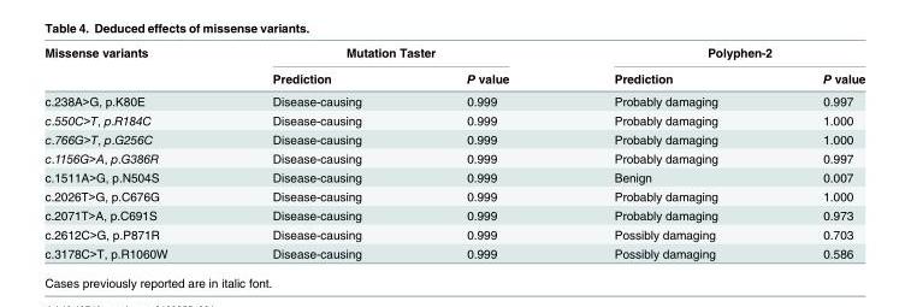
<table><thead><tr><td rowspan="2">Missense variants</td><td colspan="2">Mutation Taster</td><td colspan="2">Polyphen-2</td></tr><tr><td>Prediction</td><td>P value</td><td>Prediction</td><td>P value</td></tr></thead><tbody><tr><td>c.238A&gt;G, p.K80E</td><td>Disease-causing</td><td>0.999</td><td>Probably damaging</td><td>0.997</td></tr><tr><td>c.550C&gt;T, p.R184C</td><td>Disease-causing</td><td>0.999</td><td>Probably damaging</td><td>1.000</td></tr><tr><td>c.766G&gt;T, p.G256C</td><td>Disease-causing</td><td>0.999</td><td>Probably damaging</td><td>1.000</td></tr><tr><td>c.1156G&gt;A, p.G386R</td><td>Disease-causing</td><td>0.999</td><td>Probably damaging</td><td>0.997</td></tr><tr><td>c.1511A&gt;G, p.N504S</td><td>Disease-causing</td><td>0.999</td><td>Benign</td><td>0.007</td></tr><tr><td>c.2026T&gt;G, p.C676G</td><td>Disease-causing</td><td>0.999</td><td>Probably damaging</td><td>1.000</td></tr><tr><td>c.2071T&gt;A, p.C691S</td><td>Disease-causing</td><td>0.999</td><td>Probably damaging</td><td>0.973</td></tr><tr><td>c.2612C&gt;G, p.P871R</td><td>Disease-causing</td><td>0.999</td><td>Possibly damaging</td><td>0.703</td></tr><tr><td>c.3178C&gt;T, p.R1060W</td><td>Disease-causing</td><td>0.999</td><td>Possibly damaging</td><td>0.586</td></tr></tbody></table>